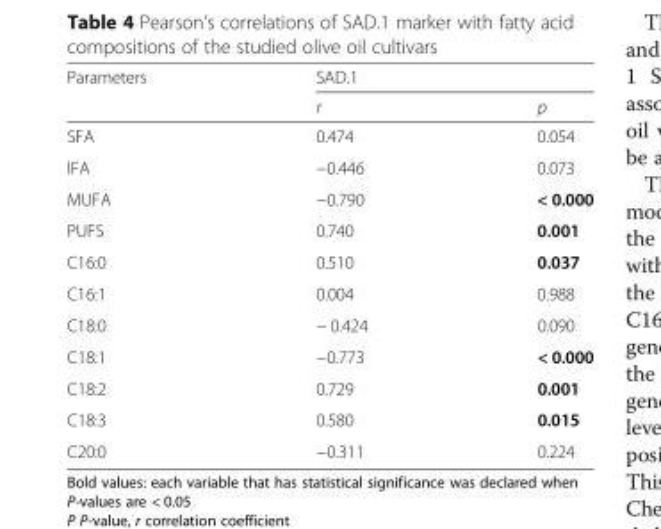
<table><thead><tr><td rowspan="2">Parameters</td><td colspan="2">SAD.1</td></tr><tr><td>r</td><td>p</td></tr></thead><tbody><tr><td>SFA</td><td>0.474</td><td>0.054</td></tr><tr><td>IFA</td><td>−0.446</td><td>0.073</td></tr><tr><td>MUFA</td><td>−0.790</td><td>&lt; 0.000</td></tr><tr><td>PUFS</td><td>0.740</td><td>0.001</td></tr><tr><td>C16:0</td><td>0.510</td><td>0.037</td></tr><tr><td>C16:1</td><td>0.004</td><td>0.988</td></tr><tr><td>C18:0</td><td>− 0.424</td><td>0.090</td></tr><tr><td>C18:1</td><td>−0.773</td><td>&lt; 0.000</td></tr><tr><td>C18:2</td><td>0.729</td><td>0.001</td></tr><tr><td>C18:3</td><td>0.580</td><td>0.015</td></tr><tr><td>C20:0</td><td>−0.311</td><td>0.224</td></tr></tbody></table>